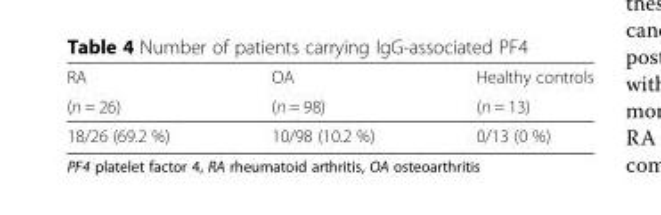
<table><thead><tr><td rowspan="2">RA (n = 26)</td><td rowspan="2">OA (n = 98)</td><td rowspan="2">Healthy controls (n = 13)</td></tr><tr></tr></thead><tbody><tr><td>18/26 (69.2 %)</td><td>10/98 (10.2 %)</td><td>0/13 (0 %)</td></tr></tbody></table>